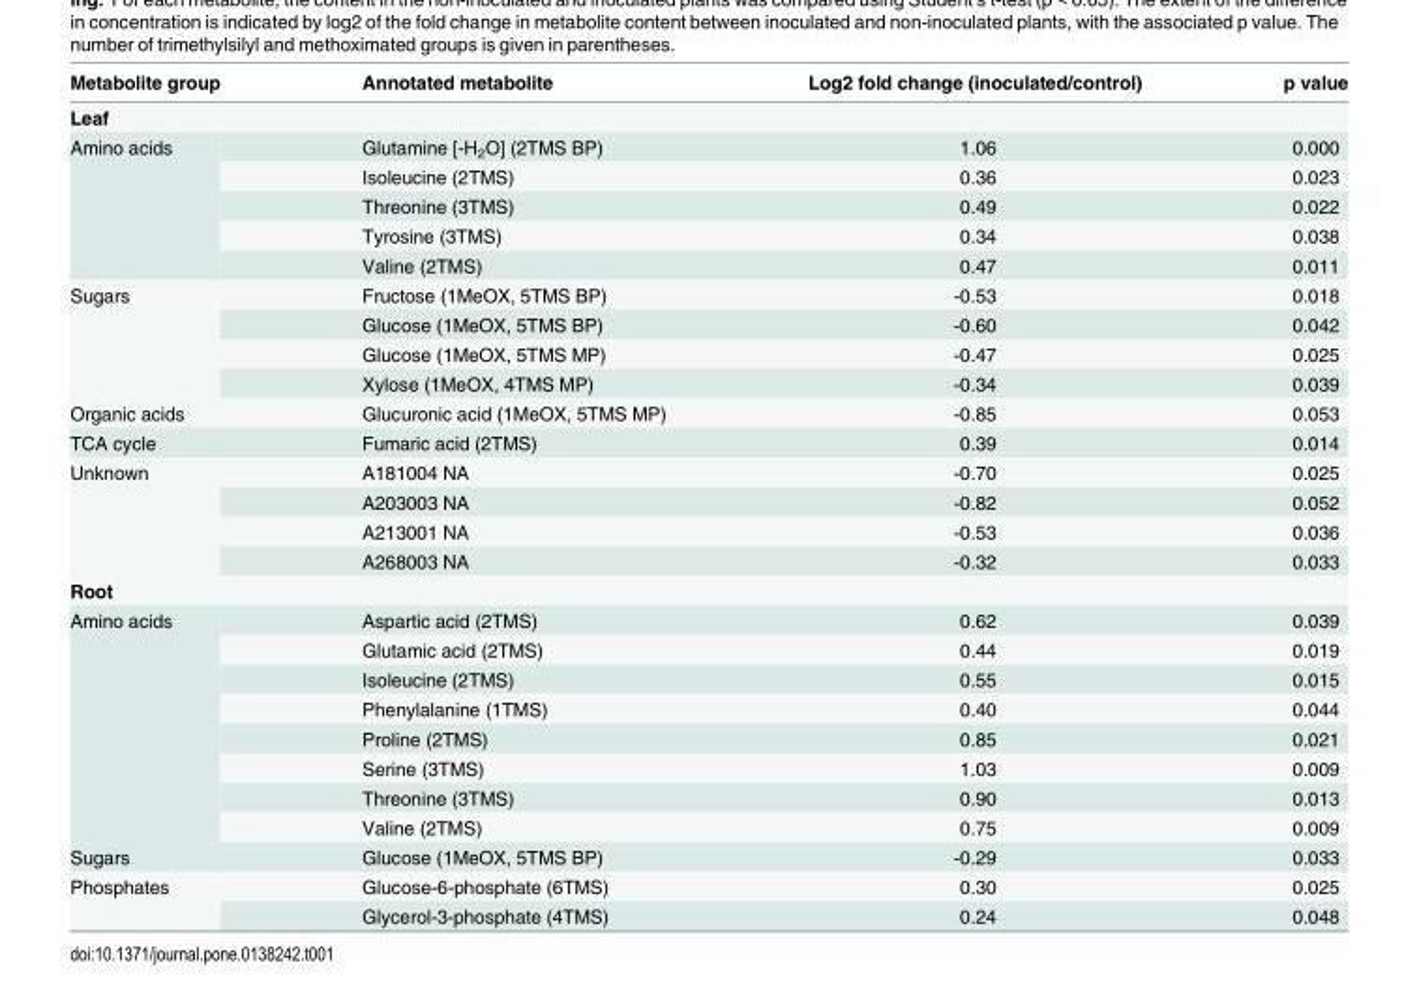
<table><thead><tr><td>Metabolite group</td><td>Annotated metabolite</td><td>Log2 fold change (inoculated/control)</td><td>p value</td></tr></thead><tbody><tr><td colspan="4">Leaf</td></tr><tr><td rowspan="5">Amino acids</td><td>Glutamine [-H<sub>2</sub>O] (2TMS BP)</td><td>1.06</td><td>0.000</td></tr><tr><td>Isoleucine (2TMS)</td><td>0.36</td><td>0.023</td></tr><tr><td>Threonine (3TMS)</td><td>0.49</td><td>0.022</td></tr><tr><td>Tyrosine (3TMS)</td><td>0.34</td><td>0.038</td></tr><tr><td>Valine (2TMS)</td><td>0.47</td><td>0.011</td></tr><tr><td rowspan="4">Sugars</td><td>Fructose (1MeOX, 5TMS BP)</td><td>-0.53</td><td>0.018</td></tr><tr><td>Glucose (1MeOX, 5TMS BP)</td><td>-0.60</td><td>0.042</td></tr><tr><td>Glucose (1MeOX, 5TMS MP)</td><td>-0.47</td><td>0.025</td></tr><tr><td>Xylose (1MeOX, 4TMS MP)</td><td>-0.34</td><td>0.039</td></tr><tr><td>Organic acids</td><td>Glucuronic acid (1MeOX, 5TMS MP)</td><td>-0.85</td><td>0.053</td></tr><tr><td>TCA cycle</td><td>Fumaric acid (2TMS)</td><td>0.39</td><td>0.014</td></tr><tr><td rowspan="4">Unknown</td><td>A181004 NA</td><td>-0.70</td><td>0.025</td></tr><tr><td>A203003 NA</td><td>-0.82</td><td>0.052</td></tr><tr><td>A213001 NA</td><td>-0.53</td><td>0.036</td></tr><tr><td>A268003 NA</td><td>-0.32</td><td>0.033</td></tr><tr><td colspan="4">Root</td></tr><tr><td rowspan="8">Amino acids</td><td>Aspartic acid (2TMS)</td><td>0.62</td><td>0.039</td></tr><tr><td>Glutamic acid (2TMS)</td><td>0.44</td><td>0.019</td></tr><tr><td>Isoleucine (2TMS)</td><td>0.55</td><td>0.015</td></tr><tr><td>Phenylalanine (1TMS)</td><td>0.40</td><td>0.044</td></tr><tr><td>Proline (2TMS)</td><td>0.85</td><td>0.021</td></tr><tr><td>Serine (3TMS)</td><td>1.03</td><td>0.009</td></tr><tr><td>Threonine (3TMS)</td><td>0.90</td><td>0.013</td></tr><tr><td>Valine (2TMS)</td><td>0.75</td><td>0.009</td></tr><tr><td>Sugars</td><td>Glucose (1MeOX, 5TMS BP)</td><td>-0.29</td><td>0.033</td></tr><tr><td rowspan="2">Phosphates</td><td>Glucose-6-phosphate (6TMS)</td><td>0.30</td><td>0.025</td></tr><tr><td>Glycerol-3-phosphate (4TMS)</td><td>0.24</td><td>0.048</td></tr></tbody></table>